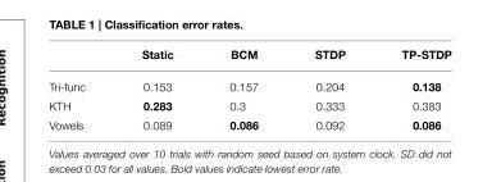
<table><thead><tr><td></td><td>Static</td><td>BCM</td><td>STDP</td><td>TP-STDP</td></tr></thead><tbody><tr><td>Tri-func</td><td>0.153</td><td>0.157</td><td>0.204</td><td>0.138</td></tr><tr><td>KTH</td><td>0.283</td><td>0.3</td><td>0.333</td><td>0.383</td></tr><tr><td>Vowels</td><td>0.089</td><td>0.086</td><td>0.092</td><td>0.086</td></tr></tbody></table>